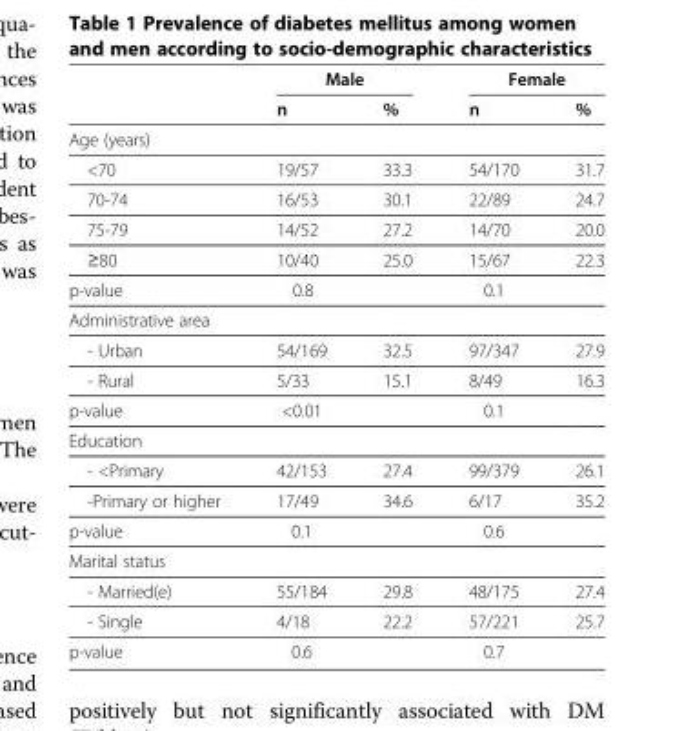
<table><thead><tr><td rowspan="2"></td><td rowspan="2">Male n</td><td rowspan="2">%</td><td rowspan="2">Female n</td><td rowspan="2">%</td></tr><tr></tr></thead><tbody><tr><td colspan="5">Age (years)</td></tr><tr><td>&lt;70</td><td>19/57</td><td>33.3</td><td>54/170</td><td>31.7</td></tr><tr><td>70-74</td><td>16/53</td><td>30.1</td><td>22/89</td><td>24.7</td></tr><tr><td>75-79</td><td>14/52</td><td>27.2</td><td>14/70</td><td>20.0</td></tr><tr><td>≥80</td><td>10/40</td><td>25.0</td><td>15/67</td><td>22.3</td></tr><tr><td>p-value</td><td>0.8</td><td></td><td>0.1</td><td></td></tr><tr><td colspan="5">Administrative area</td></tr><tr><td>- Urban</td><td>54/169</td><td>32.5</td><td>97/347</td><td>27.9</td></tr><tr><td>- Rural</td><td>5/33</td><td>15.1</td><td>8/49</td><td>16.3</td></tr><tr><td>p-value</td><td>&lt;0.01</td><td></td><td>0.1</td><td></td></tr><tr><td colspan="5">Education</td></tr><tr><td>- &lt;Primary</td><td>42/153</td><td>27.4</td><td>99/379</td><td>26.1</td></tr><tr><td>-Primary or higher</td><td>17/49</td><td>34.6</td><td>6/17</td><td>35.2</td></tr><tr><td>p-value</td><td>0.1</td><td></td><td>0.6</td><td></td></tr><tr><td colspan="5">Marital status</td></tr><tr><td>- Married(e)</td><td>55/184</td><td>29.8</td><td>48/175</td><td>27.4</td></tr><tr><td>- Single</td><td>4/18</td><td>22.2</td><td>57/221</td><td>25.7</td></tr><tr><td>p-value</td><td>0.6</td><td></td><td>0.7</td><td></td></tr></tbody></table>